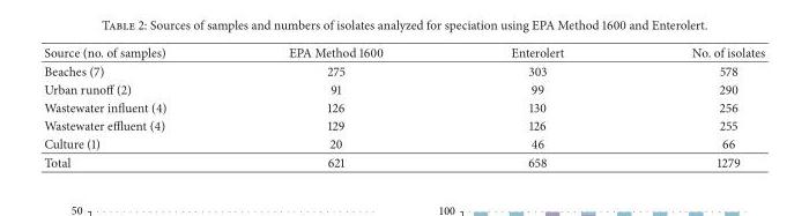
<table><thead><tr><td>Source (no. of samples)</td><td>EPA Method 1600</td><td>Enterolert</td><td>No. of isolates</td></tr></thead><tbody><tr><td>Beaches (7)</td><td>275</td><td>303</td><td>578</td></tr><tr><td>Urban runoff (2)</td><td>91</td><td>99</td><td>290</td></tr><tr><td>Wastewater influent (4)</td><td>126</td><td>130</td><td>256</td></tr><tr><td>Wastewater effluent (4)</td><td>129</td><td>126</td><td>255</td></tr><tr><td>Culture (1)</td><td>20</td><td>46</td><td>66</td></tr><tr><td>Total</td><td>621</td><td>658</td><td>1279</td></tr></tbody></table>